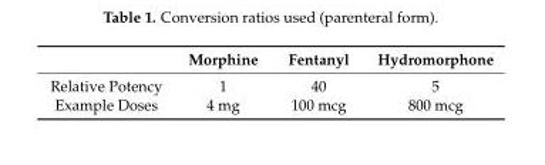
<table><thead><tr><td></td><td>Morphine</td><td>Fentanyl</td><td>Hydromorphone</td></tr></thead><tbody><tr><td>Relative Potency</td><td>1</td><td>40</td><td>5</td></tr><tr><td>Example Doses</td><td>4 mg</td><td>100 mcg</td><td>800 mcg</td></tr></tbody></table>